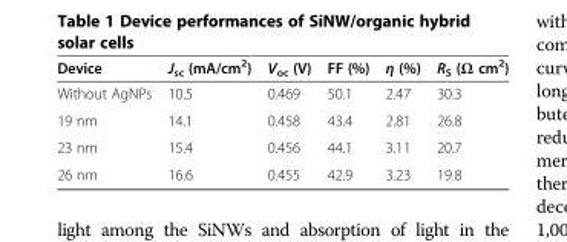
<table><thead><tr><td>Device</td><td>J<sub>sc</sub> (mA/cm<sup>2</sup>)</td><td>V<sub>oc</sub> (V)</td><td>FF (%)</td><td>η (%)</td><td>R<sub>S</sub> (Ω cm<sup>2</sup>)</td></tr></thead><tbody><tr><td>Without AgNPs</td><td>10.5</td><td>0.469</td><td>50.1</td><td>2.47</td><td>30.3</td></tr><tr><td>19 nm</td><td>14.1</td><td>0.458</td><td>43.4</td><td>2.81</td><td>26.8</td></tr><tr><td>23 nm</td><td>15.4</td><td>0.456</td><td>44.1</td><td>3.11</td><td>20.7</td></tr><tr><td>26 nm</td><td>16.6</td><td>0.455</td><td>42.9</td><td>3.23</td><td>19.8</td></tr></tbody></table>